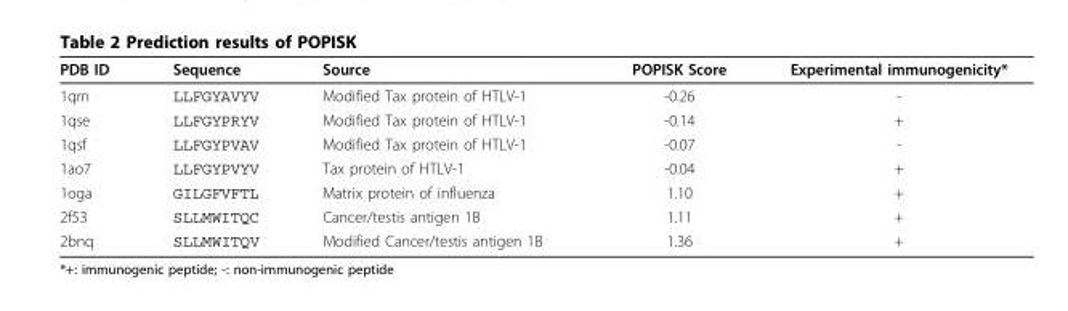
<table><thead><tr><td>PDB ID</td><td>Sequence</td><td>Source</td><td>POPISK Score</td><td>Experimental immunogenicity*</td></tr></thead><tbody><tr><td>1qrn</td><td>LLFGYAVYV</td><td>Modified Tax protein of HTLV-1</td><td>-0.26</td><td>-</td></tr><tr><td>1qse</td><td>LLFGYPRYV</td><td>Modified Tax protein of HTLV-1</td><td>-0.14</td><td>+</td></tr><tr><td>1qsf</td><td>LLFGYPVAV</td><td>Modified Tax protein of HTLV-1</td><td>-0.07</td><td>-</td></tr><tr><td>1ao7</td><td>LLFGYPVYV</td><td>Tax protein of HTLV-1</td><td>-0.04</td><td>+</td></tr><tr><td>1oga</td><td>GILGFVFTL</td><td>Matrix protein of influenza</td><td>1.10</td><td>+</td></tr><tr><td>2f53</td><td>SLLMWITQC</td><td>Cancer/testis antigen 1B</td><td>1.11</td><td>+</td></tr><tr><td>2bnq</td><td>SLLMWITQV</td><td>Modified Cancer/testis antigen 1B</td><td>1.36</td><td>+</td></tr></tbody></table>